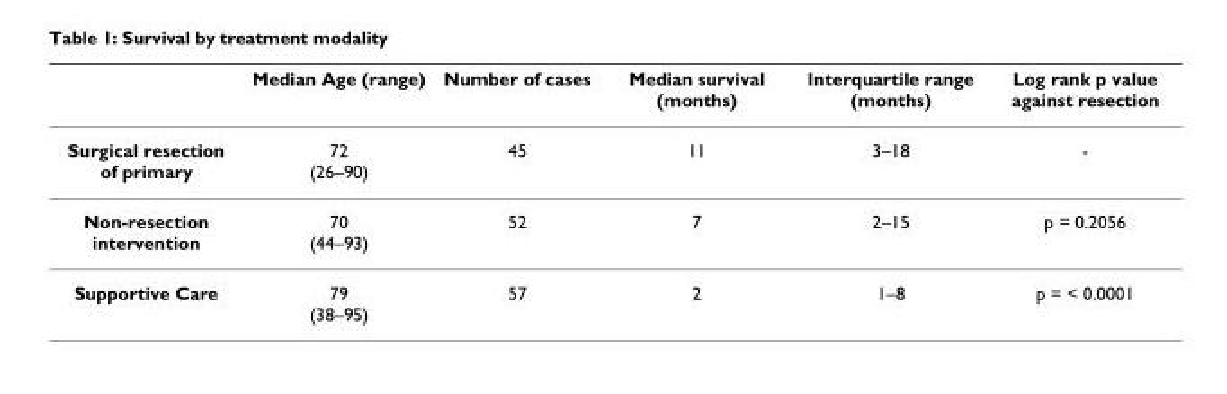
<table><thead><tr><td></td><td>Median Age (range)</td><td>Number of cases</td><td>Median survival (months)</td><td>Interquartile range (months)</td><td>Log rank p value against resection</td></tr></thead><tbody><tr><td>Surgical resection of primary</td><td>72 (26–90)</td><td>45</td><td>11</td><td>3–18</td><td>-</td></tr><tr><td>Non-resection intervention</td><td>70 (44–93)</td><td>52</td><td>7</td><td>2–15</td><td>p = 0.2056</td></tr><tr><td>Supportive Care</td><td>79 (38–95)</td><td>57</td><td>2</td><td>1–8</td><td>p = &lt; 0.0001</td></tr></tbody></table>